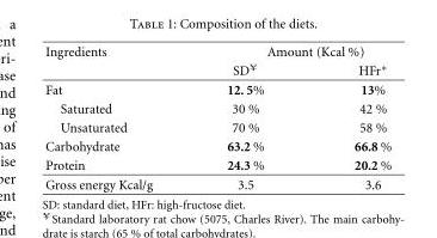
<table><thead><tr><td rowspan="2">Ingredients</td><td colspan="2">Amount (Kcal %)</td></tr><tr><td>SD<sup>¥</sup></td><td>HFr∗</td></tr></thead><tbody><tr><td>Fat</td><td>12. 5%</td><td>13%</td></tr><tr><td>Saturated</td><td>30 %</td><td>42 %</td></tr><tr><td>Unsaturated</td><td>70 %</td><td>58 %</td></tr><tr><td>Carbohydrate</td><td>63.2 %</td><td>66.8 %</td></tr><tr><td>Protein</td><td>24.3 %</td><td>20.2 %</td></tr><tr><td>Gross energy Kcal/g</td><td>3.5</td><td>3.6</td></tr></tbody></table>